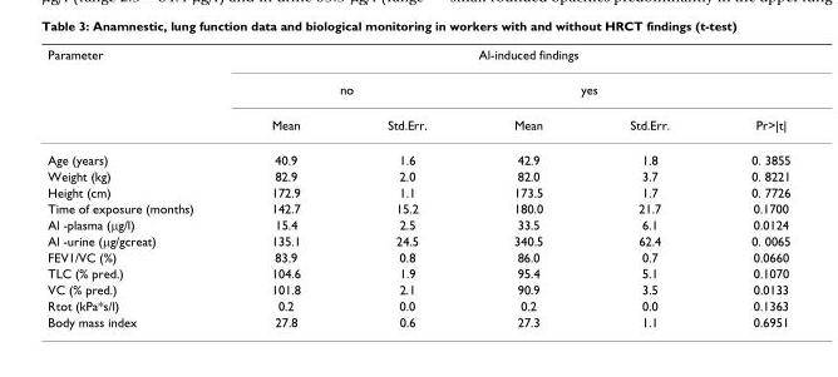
<table><thead><tr><td rowspan="3">Parameter</td><td colspan="5">Al-induced findings</td></tr><tr><td colspan="2">no</td><td colspan="2">yes</td><td rowspan="2">Pr&gt;|t|</td></tr><tr><td>Mean</td><td>Std.Err.</td><td>Mean</td><td>Std.Err.</td></tr></thead><tbody><tr><td>Age (years)</td><td>40.9</td><td>1.6</td><td>42.9</td><td>1.8</td><td>0. 3855</td></tr><tr><td>Weight (kg)</td><td>82.9</td><td>2.0</td><td>82.0</td><td>3.7</td><td>0. 8221</td></tr><tr><td>Height (cm)</td><td>172.9</td><td>1.1</td><td>173.5</td><td>1.7</td><td>0. 7726</td></tr><tr><td>Time of exposure (months)</td><td>142.7</td><td>15.2</td><td>180.0</td><td>21.7</td><td>0.1700</td></tr><tr><td>Al -plasma (µg/l)</td><td>15.4</td><td>2.5</td><td>33.5</td><td>6.1</td><td>0.0124</td></tr><tr><td>Al -urine (µg/gcreat)</td><td>135.1</td><td>24.5</td><td>340.5</td><td>62.4</td><td>0. 0065</td></tr><tr><td>FEV1/VC (%)</td><td>83.9</td><td>0.8</td><td>86.0</td><td>0.7</td><td>0.0660</td></tr><tr><td>TLC (% pred.)</td><td>104.6</td><td>1.9</td><td>95.4</td><td>5.1</td><td>0.1070</td></tr><tr><td>VC (% pred.)</td><td>101.8</td><td>2.1</td><td>90.9</td><td>3.5</td><td>0.0133</td></tr><tr><td>Rtot (kPa*s/l)</td><td>0.2</td><td>0.0</td><td>0.2</td><td>0.0</td><td>0.1363</td></tr><tr><td>Body mass index</td><td>27.8</td><td>0.6</td><td>27.3</td><td>1.1</td><td>0.6951</td></tr></tbody></table>